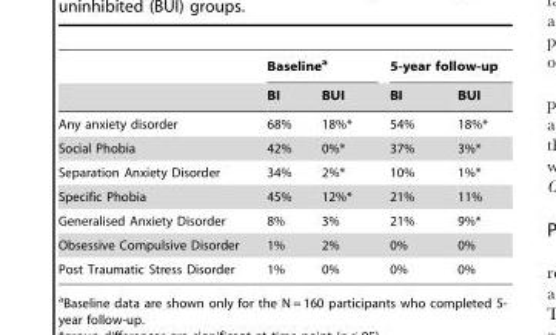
<table><thead><tr><td rowspan="2"></td><td colspan="2">Baseline<sup>a</sup></td><td colspan="2">5-year follow-up</td></tr><tr><td>BI</td><td>BUI</td><td>BI</td><td>BUI</td></tr></thead><tbody><tr><td>Any anxiety disorder</td><td>68%</td><td>18%*</td><td>54%</td><td>18%*</td></tr><tr><td>Social Phobia</td><td>42%</td><td>0%*</td><td>37%</td><td>3%*</td></tr><tr><td>Separation Anxiety Disorder</td><td>34%</td><td>2%*</td><td>10%</td><td>1%*</td></tr><tr><td>Specific Phobia</td><td>45%</td><td>12%*</td><td>21%</td><td>11%</td></tr><tr><td>Generalised Anxiety Disorder</td><td>8%</td><td>3%</td><td>21%</td><td>9%*</td></tr><tr><td>Obsessive Compulsive Disorder</td><td>1%</td><td>2%</td><td>0%</td><td>0%</td></tr><tr><td>Post Traumatic Stress Disorder</td><td>1%</td><td>0%</td><td>0%</td><td>0%</td></tr></tbody></table>